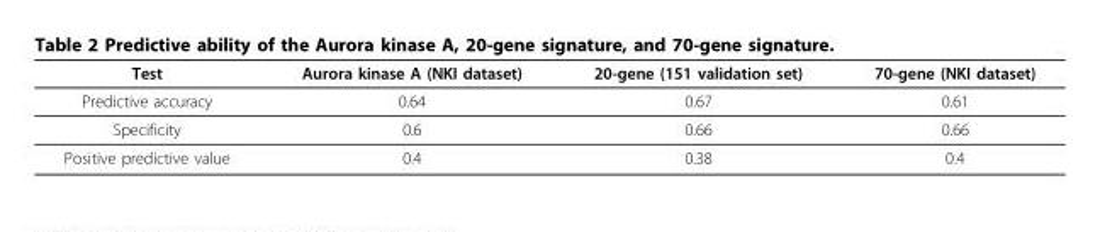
<table><thead><tr><td>Test</td><td>Aurora kinase A (NKI dataset)</td><td>20-gene (151 validation set)</td><td>70-gene (NKI dataset)</td></tr></thead><tbody><tr><td>Predictive accuracy</td><td>0.64</td><td>0.67</td><td>0.61</td></tr><tr><td>Specificity</td><td>0.6</td><td>0.66</td><td>0.66</td></tr><tr><td>Positive predictive value</td><td>0.4</td><td>0.38</td><td>0.4</td></tr></tbody></table>